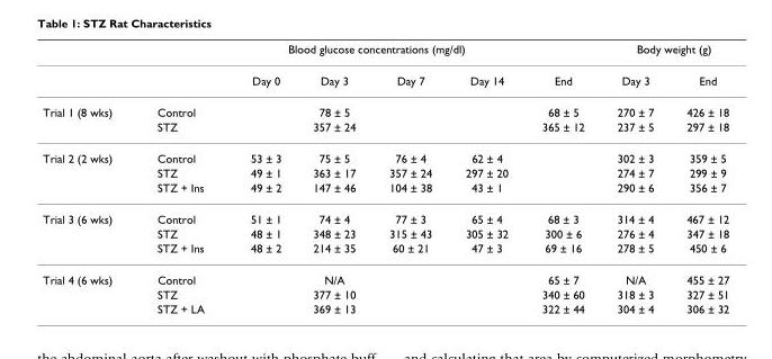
<table><thead><tr><td rowspan="2"></td><td colspan="6">Blood glucose concentrations (mg/dl)</td><td colspan="2">Body weight (g)</td></tr><tr><td></td><td>Day 0</td><td>Day 3</td><td>Day 7</td><td>Day 14</td><td>End</td><td>Day 3</td><td>End</td></tr></thead><tbody><tr><td rowspan="2">Trial 1 (8 wks)</td><td>Control</td><td></td><td>78 ± 5</td><td></td><td></td><td>68 ± 5</td><td>270 ± 7</td><td>426 ± 18</td></tr><tr><td>STZ</td><td></td><td>357 ± 24</td><td></td><td></td><td>365 ± 12</td><td>237 ± 5</td><td>297 ± 18</td></tr><tr><td rowspan="3">Trial 2 (2 wks)</td><td>Control</td><td>53 ± 3</td><td>75 ± 5</td><td>76 ± 4</td><td>62 ± 4</td><td></td><td>302 ± 3</td><td>359 ± 5</td></tr><tr><td>STZ</td><td>49 ± 1</td><td>363 ± 17</td><td>357 ± 24</td><td>297 ± 20</td><td></td><td>274 ± 7</td><td>299 ± 9</td></tr><tr><td>STZ + Ins</td><td>49 ± 2</td><td>147 ± 46</td><td>104 ± 38</td><td>43 ± 1</td><td></td><td>290 ± 6</td><td>356 ± 7</td></tr><tr><td rowspan="3">Trial 3 (6 wks)</td><td>Control</td><td>51 ± 1</td><td>74 ± 4</td><td>77 ± 3</td><td>65 ± 4</td><td>68 ± 3</td><td>314 ± 4</td><td>467 ± 12</td></tr><tr><td>STZ</td><td>48 ± 1</td><td>348 ± 23</td><td>315 ± 43</td><td>305 ± 32</td><td>300 ± 6</td><td>276 ± 4</td><td>347 ± 18</td></tr><tr><td>STZ + Ins</td><td>48 ± 2</td><td>214 ± 35</td><td>60 ± 21</td><td>47 ± 3</td><td>69 ± 16</td><td>278 ± 5</td><td>450 ± 6</td></tr><tr><td rowspan="3">Trial 4 (6 wks)</td><td>Control</td><td></td><td>N/A</td><td></td><td></td><td>65 ± 7</td><td>N/A</td><td>455 ± 27</td></tr><tr><td>STZ</td><td></td><td>377 ± 10</td><td></td><td></td><td>340 ± 60</td><td>318 ± 3</td><td>327 ± 51</td></tr><tr><td>STZ + LA</td><td></td><td>369 ± 13</td><td></td><td></td><td>322 ± 44</td><td>304 ± 4</td><td>306 ± 32</td></tr></tbody></table>